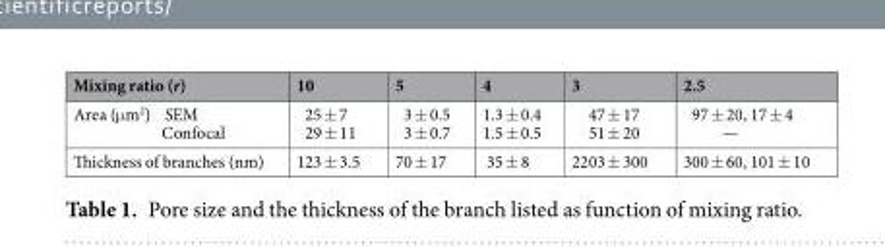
<table><thead><tr><td>Mixing ratio (r)</td><td>10</td><td>5</td><td>4</td><td>3</td><td>2.5</td></tr></thead><tbody><tr><td>Area (μm<sup>2</sup>) SEM Confocal</td><td>25 ± 7 29 ± 11</td><td>3 ± 0.5 3 ± 0.7</td><td>1.3 ± 0.4 1.5 ± 0.5</td><td>47 ± 17 51 ± 20</td><td>97 ± 20, 17 ± 4 —</td></tr><tr><td>Thickness of branches (nm)</td><td>123 ± 3.5</td><td>70 ± 17</td><td>35 ± 8</td><td>2203 ± 300</td><td>300 ± 60, 101 ± 10</td></tr></tbody></table>